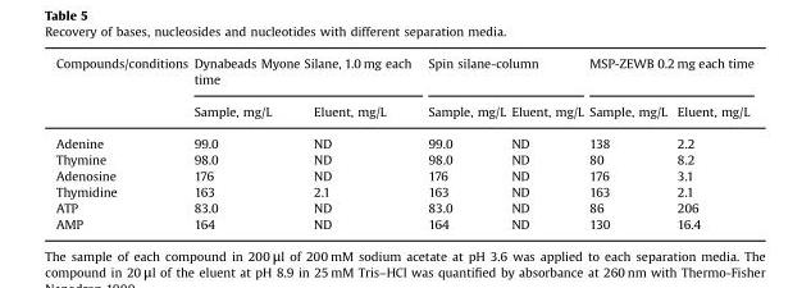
<table><thead><tr><td rowspan="2">Compounds/conditions</td><td colspan="2">Dynabeads Myone Silane, 1.0 mg each time</td><td colspan="2">Spin silane-column</td><td colspan="2">MSP-ZEWB 0.2 mg each time</td></tr><tr><td>Sample, mg/L</td><td>Eluent, mg/L</td><td>Sample, mg/L</td><td>Eluent, mg/L</td><td>Sample, mg/L</td><td>Eluent, mg/L</td></tr></thead><tbody><tr><td>Adenine</td><td>99.0</td><td>ND</td><td>99.0</td><td>ND</td><td>138</td><td>2.2</td></tr><tr><td>Thymine</td><td>98.0</td><td>ND</td><td>98.0</td><td>ND</td><td>80</td><td>8.2</td></tr><tr><td>Adenosine</td><td>176</td><td>ND</td><td>176</td><td>ND</td><td>176</td><td>3.1</td></tr><tr><td>Thymidine</td><td>163</td><td>2.1</td><td>163</td><td>ND</td><td>163</td><td>2.1</td></tr><tr><td>ATP</td><td>83.0</td><td>ND</td><td>83.0</td><td>ND</td><td>86</td><td>206</td></tr><tr><td>AMP</td><td>164</td><td>ND</td><td>164</td><td>ND</td><td>130</td><td>16.4</td></tr></tbody></table>